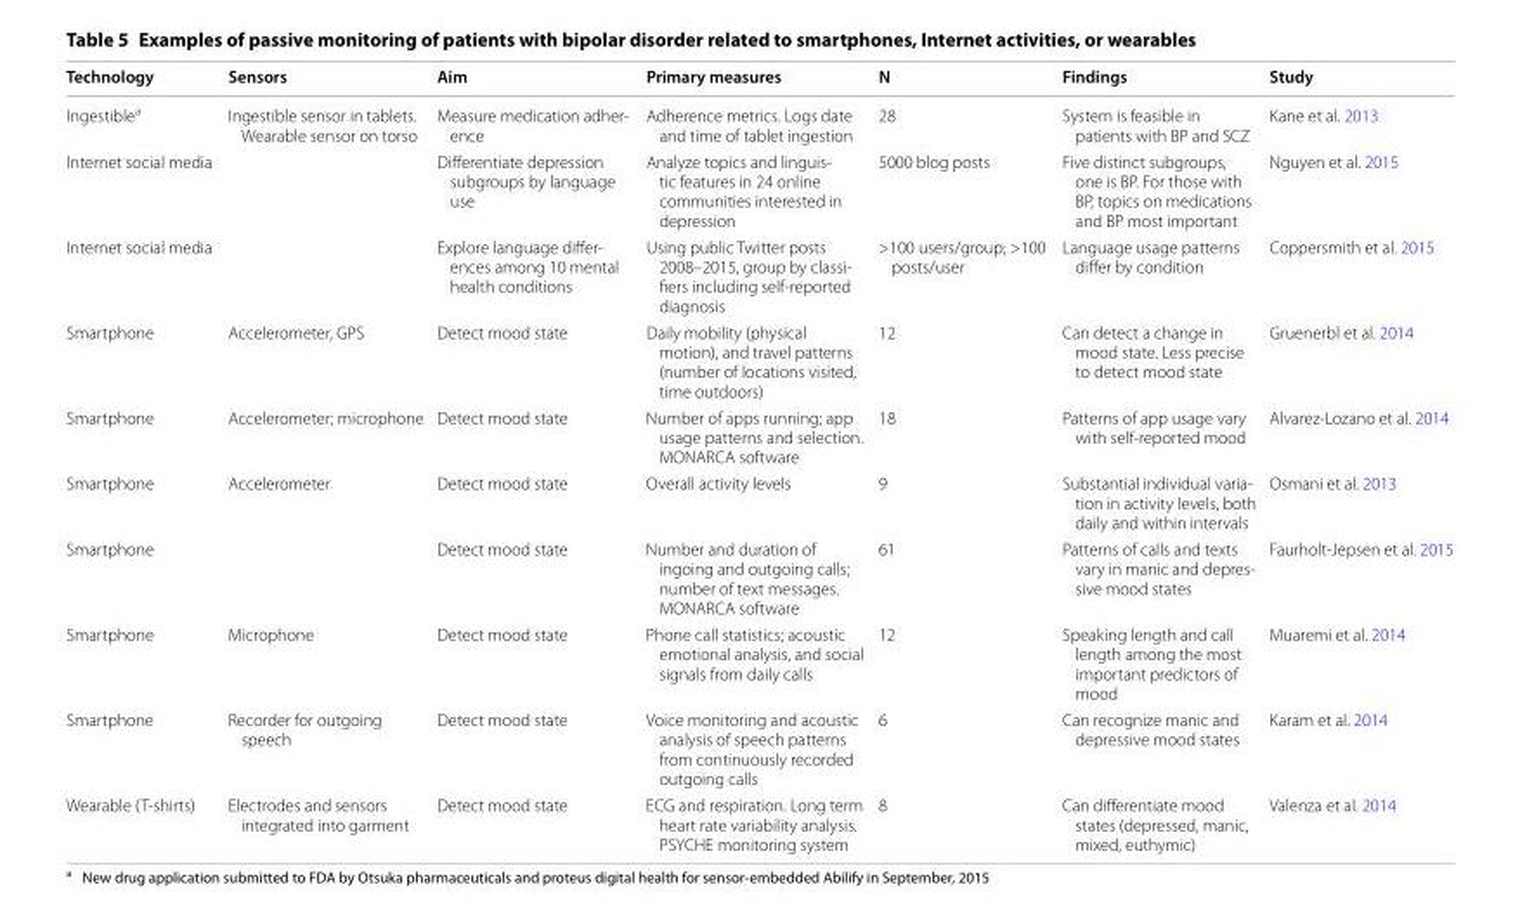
<table><thead><tr><td>Technology</td><td>Sensors</td><td>Aim</td><td>Primary measures</td><td>N</td><td>Findings</td><td>Study</td></tr></thead><tbody><tr><td>Ingestible<sup>a</sup></td><td>Ingestible sensor in tablets. Wearable sensor on torso</td><td>Measure medication adher‑ ence</td><td>Adherence metrics. Logs date and time of tablet ingestion</td><td>28</td><td>System is feasible in patients with BP and SCZ</td><td>Kane et al. 2013</td></tr><tr><td>Internet social media</td><td></td><td>Differentiate depression subgroups by language use</td><td>Analyze topics and linguis‑ tic features in 24 online communities interested in depression</td><td>5000 blog posts</td><td>Five distinct subgroups, one is BP. For those with BP, topics on medications and BP most important</td><td>Nguyen et al. 2015</td></tr><tr><td>Internet social media</td><td></td><td>Explore language differ‑ ences among 10 mental health conditions</td><td>Using public Twitter posts 2008–2015, group by classi‑ fiers including self‑reported diagnosis</td><td>&gt;100 users/group; &gt;100 posts/user</td><td>Language usage patterns differ by condition</td><td>Coppersmith et al. 2015</td></tr><tr><td>Smartphone</td><td>Accelerometer, GPS</td><td>Detect mood state</td><td>Daily mobility (physical motion), and travel patterns (number of locations visited, time outdoors)</td><td>12</td><td>Can detect a change in mood state. Less precise to detect mood state</td><td>Gruenerbl et al. 2014</td></tr><tr><td>Smartphone</td><td>Accelerometer; microphone</td><td>Detect mood state</td><td>Number of apps running; app usage patterns and selection. MONARCA software</td><td>18</td><td>Patterns of app usage vary with self‑reported mood</td><td>Alvarez‑Lozano et al. 2014</td></tr><tr><td>Smartphone</td><td>Accelerometer</td><td>Detect mood state</td><td>Overall activity levels</td><td>9</td><td>Substantial individual varia‑ tion in activity levels, both daily and within intervals</td><td>Osmani et al. 2013</td></tr><tr><td>Smartphone</td><td></td><td>Detect mood state</td><td>Number and duration of ingoing and outgoing calls; number of text messages. MONARCA software</td><td>61</td><td>Patterns of calls and texts vary in manic and depres‑ sive mood states</td><td>Faurholt‑Jepsen et al. 2015</td></tr><tr><td>Smartphone</td><td>Microphone</td><td>Detect mood state</td><td>Phone call statistics; acoustic emotional analysis, and social signals from daily calls</td><td>12</td><td>Speaking length and call length among the most important predictors of mood</td><td>Muaremi et al. 2014</td></tr><tr><td>Smartphone</td><td>Recorder for outgoing speech</td><td>Detect mood state</td><td>Voice monitoring and acoustic analysis of speech patterns from continuously recorded outgoing calls</td><td>6</td><td>Can recognize manic and depressive mood states</td><td>Karam et al. 2014</td></tr><tr><td>Wearable (T‑shirts)</td><td>Electrodes and sensors integrated into garment</td><td>Detect mood state</td><td>ECG and respiration. Long term heart rate variability analysis. PSYCHE monitoring system</td><td>8</td><td>Can differentiate mood states (depressed, manic, mixed, euthymic)</td><td>Valenza et al. 2014</td></tr></tbody></table>